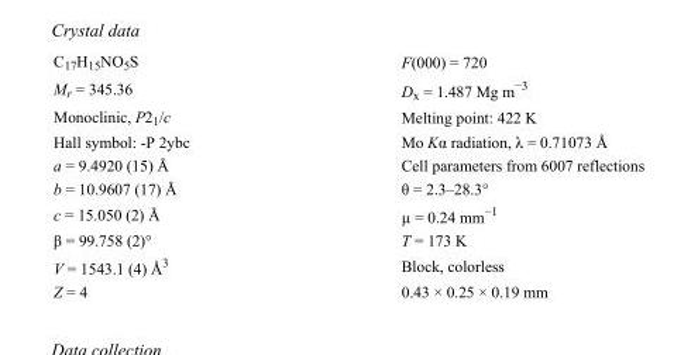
<table><tbody><tr><td>C<sub>17</sub>H<sub>15</sub>NO<sub>5</sub>S</td><td>F(000) = 720</td></tr><tr><td>M<sub>r</sub> = 345.36</td><td>D<sub>x</sub> = 1.487 Mg m<sup>−3</sup></td></tr><tr><td>Monoclinic, P2<sub>1</sub>/c</td><td>Melting point: 422 K</td></tr><tr><td>Hall symbol: -P 2ybc</td><td>Mo Kα radiation, λ = 0.71073 Å</td></tr><tr><td>a = 9.4920 (15) Å</td><td>Cell parameters from 6007 reflections</td></tr><tr><td>b = 10.9607 (17) Å</td><td>θ = 2.3–28.3°</td></tr><tr><td>c = 15.050 (2) Å</td><td>µ = 0.24 mm<sup>−1</sup></td></tr><tr><td>β = 99.758 (2)°</td><td>T = 173 K</td></tr><tr><td>V = 1543.1 (4) Å<sup>3</sup></td><td>Block, colorless</td></tr><tr><td>Z = 4</td><td>0.43 × 0.25 × 0.19 mm</td></tr></tbody></table>